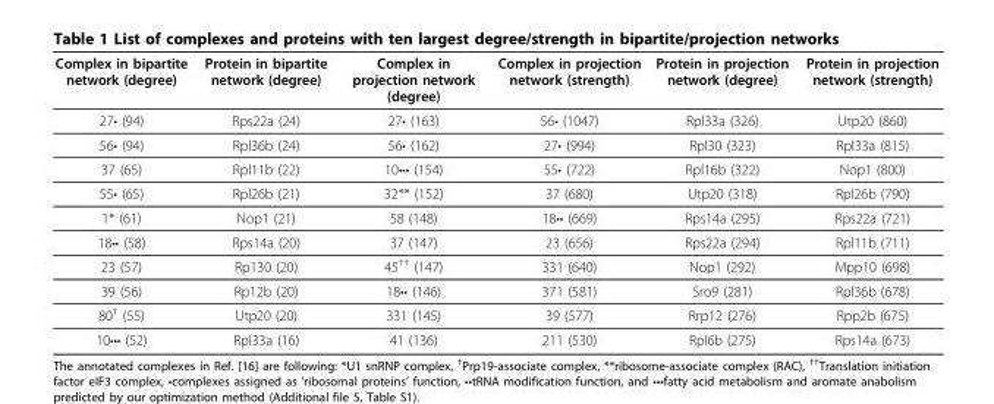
<table><thead><tr><td>Complex in bipartite network (degree)</td><td>Protein in bipartite network (degree)</td><td>Complex in projection network (degree)</td><td>Complex in projection network (strength)</td><td>Protein in projection network (degree)</td><td>Protein in projection network (strength)</td></tr></thead><tbody><tr><td>27• (94)</td><td>Rps22a (24)</td><td>27• (163)</td><td>56• (1047)</td><td>Rpl33a (326)</td><td>Utp20 (860)</td></tr><tr><td>56• (94)</td><td>Rpl36b (24)</td><td>56• (162)</td><td>27• (994)</td><td>Rpl30 (323)</td><td>Rpl33a (815)</td></tr><tr><td>37 (65)</td><td>Rpl11b (22)</td><td>10••• (154)</td><td>55• (722)</td><td>Rpl16b (322)</td><td>Nop1 (800)</td></tr><tr><td>55• (65)</td><td>Rpl26b (21)</td><td>32** (152)</td><td>37 (680)</td><td>Utp20 (318)</td><td>Rpl26b (790)</td></tr><tr><td>1* (61)</td><td>Nop1 (21)</td><td>58 (148)</td><td>18•• (669)</td><td>Rps14a (295)</td><td>Rps22a (721)</td></tr><tr><td>18•• (58)</td><td>Rps14a (20)</td><td>37 (147)</td><td>23 (656)</td><td>Rps22a (294)</td><td>Rpl11b (711)</td></tr><tr><td>23 (57)</td><td>Rp130 (20)</td><td>45<sup>††</sup> (147)</td><td>331 (640)</td><td>Nop1 (292)</td><td>Mpp10 (698)</td></tr><tr><td>39 (56)</td><td>Rp12b (20)</td><td>18•• (146)</td><td>371 (581)</td><td>Sro9 (281)</td><td>Rpl36b (678)</td></tr><tr><td>80<sup>†</sup> (55)</td><td>Utp20 (20)</td><td>331 (145)</td><td>39 (577)</td><td>Rrp12 (276)</td><td>Rpp2b (675)</td></tr><tr><td>10••• (52)</td><td>Rpl33a (16)</td><td>41 (136)</td><td>211 (530)</td><td>Rpl6b (275)</td><td>Rps14a (673)</td></tr></tbody></table>